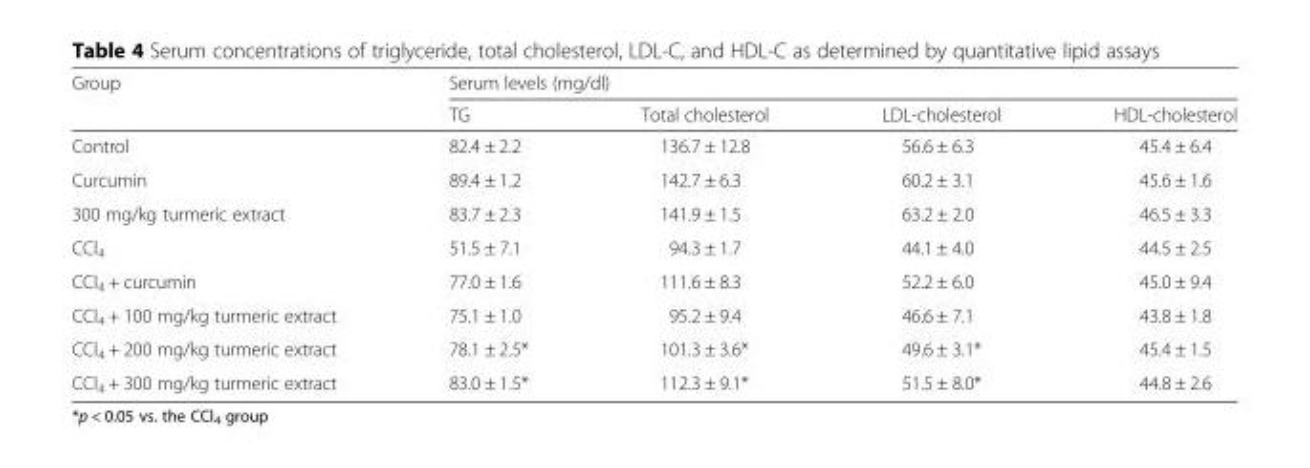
<table><thead><tr><td rowspan="2">Group</td><td colspan="4">Serum levels (mg/dl)</td></tr><tr><td>TG</td><td>Total cholesterol</td><td>LDL-cholesterol</td><td>HDL-cholesterol</td></tr></thead><tbody><tr><td>Control</td><td>82.4 ± 2.2</td><td>136.7 ± 12.8</td><td>56.6 ± 6.3</td><td>45.4 ± 6.4</td></tr><tr><td>Curcumin</td><td>89.4 ± 1.2</td><td>142.7 ± 6.3</td><td>60.2 ± 3.1</td><td>45.6 ± 1.6</td></tr><tr><td>300 mg/kg turmeric extract</td><td>83.7 ± 2.3</td><td>141.9 ± 1.5</td><td>63.2 ± 2.0</td><td>46.5 ± 3.3</td></tr><tr><td>CCl<sub>4</sub></td><td>51.5 ± 7.1</td><td>94.3 ± 1.7</td><td>44.1 ± 4.0</td><td>44.5 ± 2.5</td></tr><tr><td>CCl<sub>4</sub> + curcumin</td><td>77.0 ± 1.6</td><td>111.6 ± 8.3</td><td>52.2 ± 6.0</td><td>45.0 ± 9.4</td></tr><tr><td>CCl<sub>4</sub> + 100 mg/kg turmeric extract</td><td>75.1 ± 1.0</td><td>95.2 ± 9.4</td><td>46.6 ± 7.1</td><td>43.8 ± 1.8</td></tr><tr><td>CCl<sub>4</sub> + 200 mg/kg turmeric extract</td><td>78.1 ± 2.5*</td><td>101.3 ± 3.6*</td><td>49.6 ± 3.1*</td><td>45.4 ± 1.5</td></tr><tr><td>CCl<sub>4</sub> + 300 mg/kg turmeric extract</td><td>83.0 ± 1.5*</td><td>112.3 ± 9.1*</td><td>51.5 ± 8.0*</td><td>44.8 ± 2.6</td></tr></tbody></table>